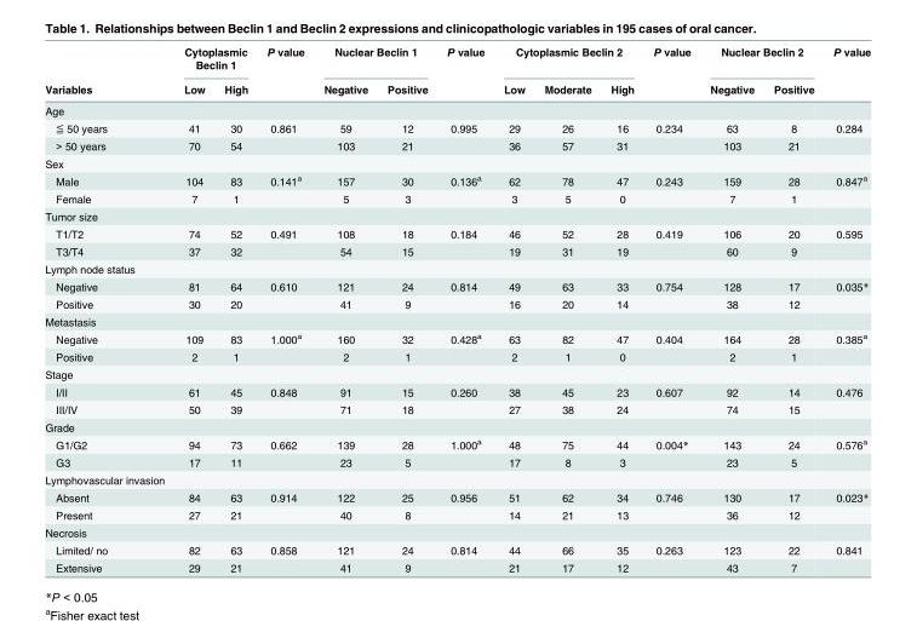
<table><thead><tr><td rowspan="2">Variables</td><td colspan="2">Cytoplasmic Beclin 1</td><td rowspan="2">P value</td><td colspan="2">Nuclear Beclin 1</td><td rowspan="2">P value</td><td colspan="3">Cytoplasmic Beclin 2</td><td rowspan="2">P value</td><td colspan="2">Nuclear Beclin 2</td><td rowspan="2">P value</td></tr><tr><td>Low</td><td>High</td><td>Negative</td><td>Positive</td><td>Low</td><td>Moderate</td><td>High</td><td>Negative</td><td>Positive</td></tr></thead><tbody><tr><td colspan="14">Age</td></tr><tr><td>≦ 50 years</td><td>41</td><td>30</td><td>0.861</td><td>59</td><td>12</td><td>0.995</td><td>29</td><td>26</td><td>16</td><td>0.234</td><td>63</td><td>8</td><td>0.284</td></tr><tr><td>&gt; 50 years</td><td>70</td><td>54</td><td></td><td>103</td><td>21</td><td></td><td>36</td><td>57</td><td>31</td><td></td><td>103</td><td>21</td><td></td></tr><tr><td colspan="14">Sex</td></tr><tr><td>Male</td><td>104</td><td>83</td><td>0.141<sup>a</sup></td><td>157</td><td>30</td><td>0.136<sup>a</sup></td><td>62</td><td>78</td><td>47</td><td>0.243</td><td>159</td><td>28</td><td>0.847<sup>a</sup></td></tr><tr><td>Female</td><td>7</td><td>1</td><td></td><td>5</td><td>3</td><td></td><td>3</td><td>5</td><td>0</td><td></td><td>7</td><td>1</td><td></td></tr><tr><td colspan="14">Tumor size</td></tr><tr><td>T1/T2</td><td>74</td><td>52</td><td>0.491</td><td>108</td><td>18</td><td>0.184</td><td>46</td><td>52</td><td>28</td><td>0.419</td><td>106</td><td>20</td><td>0.595</td></tr><tr><td>T3/T4</td><td>37</td><td>32</td><td></td><td>54</td><td>15</td><td></td><td>19</td><td>31</td><td>19</td><td></td><td>60</td><td>9</td><td></td></tr><tr><td colspan="14">Lymph node status</td></tr><tr><td>Negative</td><td>81</td><td>64</td><td>0.610</td><td>121</td><td>24</td><td>0.814</td><td>49</td><td>63</td><td>33</td><td>0.754</td><td>128</td><td>17</td><td>0.035*</td></tr><tr><td>Positive</td><td>30</td><td>20</td><td></td><td>41</td><td>9</td><td></td><td>16</td><td>20</td><td>14</td><td></td><td>38</td><td>12</td><td></td></tr><tr><td colspan="14">Metastasis</td></tr><tr><td>Negative</td><td>109</td><td>83</td><td>1.000<sup>a</sup></td><td>160</td><td>32</td><td>0.428<sup>a</sup></td><td>63</td><td>82</td><td>47</td><td>0.404</td><td>164</td><td>28</td><td>0.385<sup>a</sup></td></tr><tr><td>Positive</td><td>2</td><td>1</td><td></td><td>2</td><td>1</td><td></td><td>2</td><td>1</td><td>0</td><td></td><td>2</td><td>1</td><td></td></tr><tr><td colspan="14">Stage</td></tr><tr><td>I/II</td><td>61</td><td>45</td><td>0.848</td><td>91</td><td>15</td><td>0.260</td><td>38</td><td>45</td><td>23</td><td>0.607</td><td>92</td><td>14</td><td>0.476</td></tr><tr><td>III/IV</td><td>50</td><td>39</td><td></td><td>71</td><td>18</td><td></td><td>27</td><td>38</td><td>24</td><td></td><td>74</td><td>15</td><td></td></tr><tr><td colspan="14">Grade</td></tr><tr><td>G1/G2</td><td>94</td><td>73</td><td>0.662</td><td>139</td><td>28</td><td>1.000<sup>a</sup></td><td>48</td><td>75</td><td>44</td><td>0.004*</td><td>143</td><td>24</td><td>0.576<sup>a</sup></td></tr><tr><td>G3</td><td>17</td><td>11</td><td></td><td>23</td><td>5</td><td></td><td>17</td><td>8</td><td>3</td><td></td><td>23</td><td>5</td><td></td></tr><tr><td colspan="14">Lymphovascular invasion</td></tr><tr><td>Absent</td><td>84</td><td>63</td><td>0.914</td><td>122</td><td>25</td><td>0.956</td><td>51</td><td>62</td><td>34</td><td>0.746</td><td>130</td><td>17</td><td>0.023*</td></tr><tr><td>Present</td><td>27</td><td>21</td><td></td><td>40</td><td>8</td><td></td><td>14</td><td>21</td><td>13</td><td></td><td>36</td><td>12</td><td></td></tr><tr><td colspan="14">Necrosis</td></tr><tr><td>Limited/ no</td><td>82</td><td>63</td><td>0.858</td><td>121</td><td>24</td><td>0.814</td><td>44</td><td>66</td><td>35</td><td>0.263</td><td>123</td><td>22</td><td>0.841</td></tr><tr><td>Extensive</td><td>29</td><td>21</td><td></td><td>41</td><td>9</td><td></td><td>21</td><td>17</td><td>12</td><td></td><td>43</td><td>7</td><td></td></tr></tbody></table>